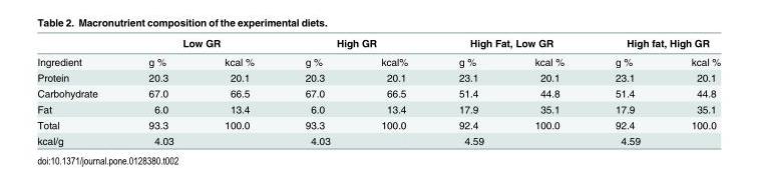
<table><thead><tr><td rowspan="2">Ingredient</td><td colspan="2">Low GR</td><td colspan="2">High GR</td><td colspan="2">High Fat, Low GR</td><td colspan="2">High fat, High GR</td></tr><tr><td>g %</td><td>kcal %</td><td>g %</td><td>kcal%</td><td>g %</td><td>kcal %</td><td>g %</td><td>kcal %</td></tr></thead><tbody><tr><td>Protein</td><td>20.3</td><td>20.1</td><td>20.3</td><td>20.1</td><td>23.1</td><td>20.1</td><td>23.1</td><td>20.1</td></tr><tr><td>Carbohydrate</td><td>67.0</td><td>66.5</td><td>67.0</td><td>66.5</td><td>51.4</td><td>44.8</td><td>51.4</td><td>44.8</td></tr><tr><td>Fat</td><td>6.0</td><td>13.4</td><td>6.0</td><td>13.4</td><td>17.9</td><td>35.1</td><td>17.9</td><td>35.1</td></tr><tr><td>Total</td><td>93.3</td><td>100.0</td><td>93.3</td><td>100.0</td><td>92.4</td><td>100.0</td><td>92.4</td><td>100.0</td></tr><tr><td>kcal/g</td><td>4.03</td><td></td><td>4.03</td><td></td><td>4.59</td><td></td><td>4.59</td><td></td></tr></tbody></table>